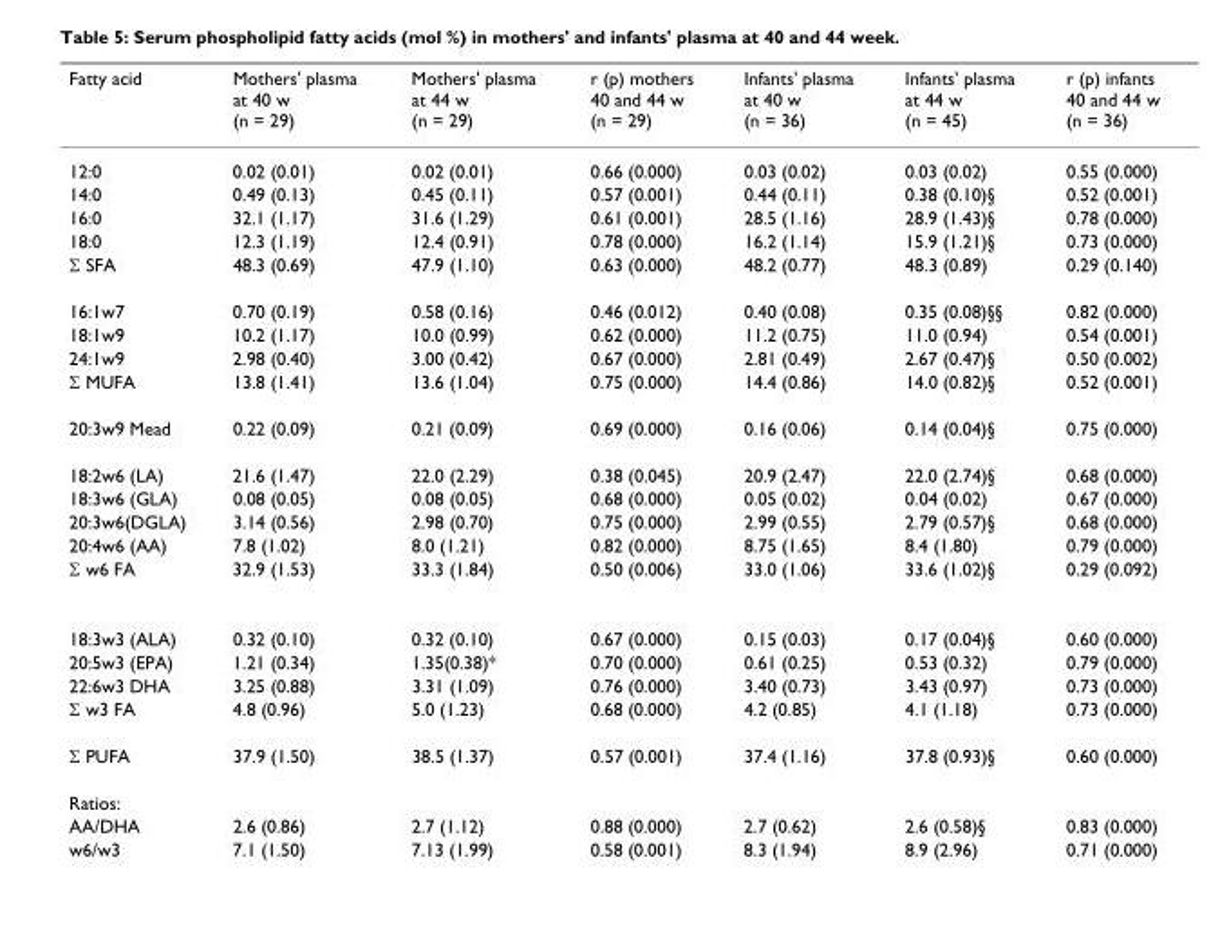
<table><thead><tr><td>Fatty acid</td><td>Mothers&#x27; plasma at 40 w (n = 29)</td><td>Mothers&#x27; plasma at 44 w (n = 29)</td><td>r (p) mothers 40 and 44 w (n = 29)</td><td>Infants&#x27; plasma at 40 w (n = 36)</td><td>Infants&#x27; plasma at 44 w (n = 45)</td><td>r (p) infants 40 and 44 w (n = 36)</td></tr></thead><tbody><tr><td>12:0</td><td>0.02 (0.01)</td><td>0.02 (0.01)</td><td>0.66 (0.000)</td><td>0.03 (0.02)</td><td>0.03 (0.02)</td><td>0.55 (0.000)</td></tr><tr><td>14:0</td><td>0.49 (0.13)</td><td>0.45 (0.11)</td><td>0.57 (0.001)</td><td>0.44 (0.11)</td><td>0.38 (0.10)§</td><td>0.52 (0.001)</td></tr><tr><td>16:0</td><td>32.1 (1.17)</td><td>31.6 (1.29)</td><td>0.61 (0.001)</td><td>28.5 (1.16)</td><td>28.9 (1.43)§</td><td>0.78 (0.000)</td></tr><tr><td>18:0</td><td>12.3 (1.19)</td><td>12.4 (0.91)</td><td>0.78 (0.000)</td><td>16.2 (1.14)</td><td>15.9 (1.21)§</td><td>0.73 (0.000)</td></tr><tr><td>Σ SFA</td><td>48.3 (0.69)</td><td>47.9 (1.10)</td><td>0.63 (0.000)</td><td>48.2 (0.77)</td><td>48.3 (0.89)</td><td>0.29 (0.140)</td></tr><tr><td>16:1w7</td><td>0.70 (0.19)</td><td>0.58 (0.16)</td><td>0.46 (0.012)</td><td>0.40 (0.08)</td><td>0.35 (0.08)§§</td><td>0.82 (0.000)</td></tr><tr><td>18:1w9</td><td>10.2 (1.17)</td><td>10.0 (0.99)</td><td>0.62 (0.000)</td><td>11.2 (0.75)</td><td>11.0 (0.94)</td><td>0.54 (0.001)</td></tr><tr><td>24:1w9</td><td>2.98 (0.40)</td><td>3.00 (0.42)</td><td>0.67 (0.000)</td><td>2.81 (0.49)</td><td>2.67 (0.47)§</td><td>0.50 (0.002)</td></tr><tr><td>Σ MUFA</td><td>13.8 (1.41)</td><td>13.6 (1.04)</td><td>0.75 (0.000)</td><td>14.4 (0.86)</td><td>14.0 (0.82)§</td><td>0.52 (0.001)</td></tr><tr><td>20:3w9 Mead</td><td>0.22 (0.09)</td><td>0.21 (0.09)</td><td>0.69 (0.000)</td><td>0.16 (0.06)</td><td>0.14 (0.04)§</td><td>0.75 (0.000)</td></tr><tr><td>18:2w6 (LA)</td><td>21.6 (1.47)</td><td>22.0 (2.29)</td><td>0.38 (0.045)</td><td>20.9 (2.47)</td><td>22.0 (2.74)§</td><td>0.68 (0.000)</td></tr><tr><td>18:3w6 (GLA)</td><td>0.08 (0.05)</td><td>0.08 (0.05)</td><td>0.68 (0.000)</td><td>0.05 (0.02)</td><td>0.04 (0.02)</td><td>0.67 (0.000)</td></tr><tr><td>20:3w6(DGLA)</td><td>3.14 (0.56)</td><td>2.98 (0.70)</td><td>0.75 (0.000)</td><td>2.99 (0.55)</td><td>2.79 (0.57)§</td><td>0.68 (0.000)</td></tr><tr><td>20:4w6 (AA)</td><td>7.8 (1.02)</td><td>8.0 (1.21)</td><td>0.82 (0.000)</td><td>8.75 (1.65)</td><td>8.4 (1.80)</td><td>0.79 (0.000)</td></tr><tr><td>Σ w6 FA</td><td>32.9 (1.53)</td><td>33.3 (1.84)</td><td>0.50 (0.006)</td><td>33.0 (1.06)</td><td>33.6 (1.02)§</td><td>0.29 (0.092)</td></tr><tr><td>18:3w3 (ALA)</td><td>0.32 (0.10)</td><td>0.32 (0.10)</td><td>0.67 (0.000)</td><td>0.15 (0.03)</td><td>0.17 (0.04)§</td><td>0.60 (0.000)</td></tr><tr><td>20:5w3 (EPA)</td><td>1.21 (0.34)</td><td>1.35(0.38)*</td><td>0.70 (0.000)</td><td>0.61 (0.25)</td><td>0.53 (0.32)</td><td>0.79 (0.000)</td></tr><tr><td>22:6w3 DHA</td><td>3.25 (0.88)</td><td>3.31 (1.09)</td><td>0.76 (0.000)</td><td>3.40 (0.73)</td><td>3.43 (0.97)</td><td>0.73 (0.000)</td></tr><tr><td>Σ w3 FA</td><td>4.8 (0.96)</td><td>5.0 (1.23)</td><td>0.68 (0.000)</td><td>4.2 (0.85)</td><td>4.1 (1.18)</td><td>0.73 (0.000)</td></tr><tr><td>Σ PUFA</td><td>37.9 (1.50)</td><td>38.5 (1.37)</td><td>0.57 (0.001)</td><td>37.4 (1.16)</td><td>37.8 (0.93)§</td><td>0.60 (0.000)</td></tr><tr><td colspan="7">Ratios:</td></tr><tr><td>AA/DHA</td><td>2.6 (0.86)</td><td>2.7 (1.12)</td><td>0.88 (0.000)</td><td>2.7 (0.62)</td><td>2.6 (0.58)§</td><td>0.83 (0.000)</td></tr><tr><td>w6/w3</td><td>7.1 (1.50)</td><td>7.13 (1.99)</td><td>0.58 (0.001)</td><td>8.3 (1.94)</td><td>8.9 (2.96)</td><td>0.71 (0.000)</td></tr></tbody></table>